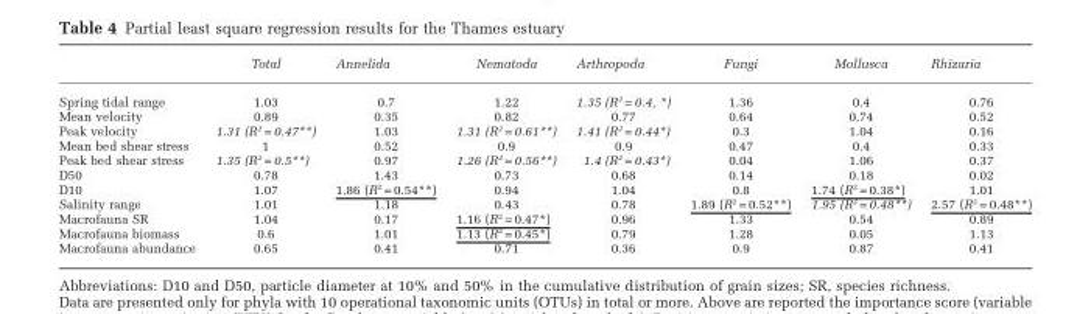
<table><thead><tr><td></td><td>Total</td><td>Annelida</td><td>Nematoda</td><td>Arthropoda</td><td>Fungi</td><td>Mollusca</td><td>Rhizaria</td></tr></thead><tbody><tr><td>Spring tidal range</td><td>1.03</td><td>0.7</td><td>1.22</td><td>1.35 (R<sup>2</sup> = 0.4, *)</td><td>1.36</td><td>0.4</td><td>0.76</td></tr><tr><td>Mean velocity</td><td>0.89</td><td>0.35</td><td>0.82</td><td>0.77</td><td>0.64</td><td>0.74</td><td>0.52</td></tr><tr><td>Peak velocity</td><td>1.31 (R<sup>2</sup> = 0.47**)</td><td>1.03</td><td>1.31 (R<sup>2</sup> = 0.61**)</td><td>1.41 (R<sup>2</sup> = 0.44*)</td><td>0.3</td><td>1.04</td><td>0.16</td></tr><tr><td>Mean bed shear stress</td><td>1</td><td>0.52</td><td>0.9</td><td>0.9</td><td>0.47</td><td>0.4</td><td>0.33</td></tr><tr><td>Peak bed shear stress</td><td>1.35 (R<sup>2</sup> = 0.5**)</td><td>0.97</td><td>1.26 (R<sup>2</sup> = 0.56**)</td><td>1.4 (R<sup>2</sup> = 0.43*)</td><td>0.04</td><td>1.06</td><td>0.37</td></tr><tr><td>D50</td><td>0.78</td><td>1.43</td><td>0.73</td><td>0.68</td><td>0.14</td><td>0.18</td><td>0.02</td></tr><tr><td>D10</td><td>1.07</td><td>1.86 (R<sup>2</sup> = 0.54**)</td><td>0.94</td><td>1.04</td><td>0.8</td><td>1.74 (R<sup>2</sup> = 0.38*)</td><td>1.01</td></tr><tr><td>Salinity range</td><td>1.01</td><td>1.18</td><td>0.43</td><td>0.78</td><td>1.89 (R<sup>2</sup> = 0.52**)</td><td>1.95 (R<sup>2</sup> = 0.48**)</td><td>2.57 (R<sup>2</sup> = 0.48**)</td></tr><tr><td>Macrofauna SR</td><td>1.04</td><td>0.17</td><td>1.16 (R<sup>2</sup> = 0.47*)</td><td>0.96</td><td>1.33</td><td>0.54</td><td>0.89</td></tr><tr><td>Macrofauna biomass</td><td>0.6</td><td>1.01</td><td>1.13 (R<sup>2</sup> = 0.45*)</td><td>0.79</td><td>1.28</td><td>0.05</td><td>1.13</td></tr><tr><td>Macrofauna abundance</td><td>0.65</td><td>0.41</td><td>0.71</td><td>0.36</td><td>0.9</td><td>0.87</td><td>0.41</td></tr></tbody></table>